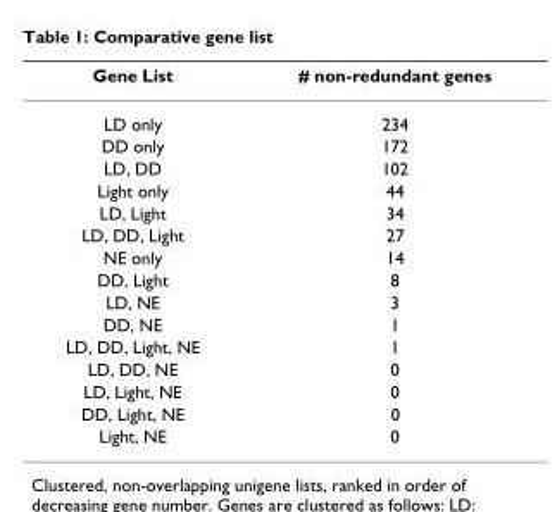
<table><thead><tr><td>Gene List</td><td># non-redundant genes</td></tr></thead><tbody><tr><td>LD only</td><td>234</td></tr><tr><td>DD only</td><td>172</td></tr><tr><td>LD, DD</td><td>102</td></tr><tr><td>Light only</td><td>44</td></tr><tr><td>LD, Light</td><td>34</td></tr><tr><td>LD, DD, Light</td><td>27</td></tr><tr><td>NE only</td><td>14</td></tr><tr><td>DD, Light</td><td>8</td></tr><tr><td>LD, NE</td><td>3</td></tr><tr><td>DD, NE</td><td>1</td></tr><tr><td>LD, DD, Light, NE</td><td>1</td></tr><tr><td>LD, DD, NE</td><td>0</td></tr><tr><td>LD, Light, NE</td><td>0</td></tr><tr><td>DD, Light, NE</td><td>0</td></tr><tr><td>Light, NE</td><td>0</td></tr></tbody></table>